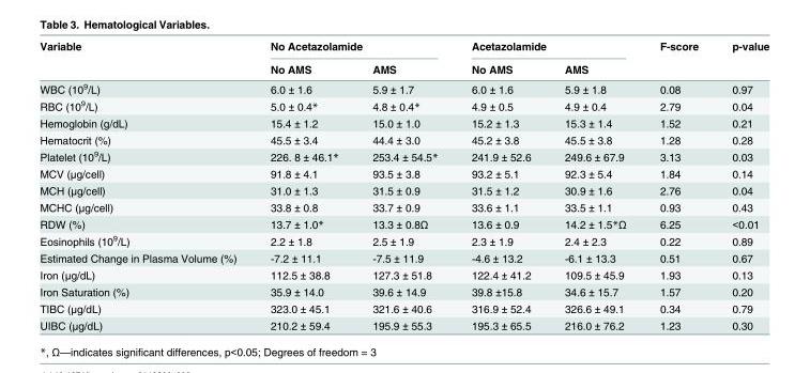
<table><thead><tr><td rowspan="2">Variable</td><td colspan="2">No Acetazolamide</td><td colspan="2">Acetazolamide</td><td rowspan="2">F-score</td><td rowspan="2">p-value</td></tr><tr><td>No AMS</td><td>AMS</td><td>No AMS</td><td>AMS</td></tr></thead><tbody><tr><td>WBC (10<sup>9</sup>/L)</td><td>6.0 ± 1.6</td><td>5.9 ± 1.7</td><td>6.0 ± 1.6</td><td>5.9 ± 1.8</td><td>0.08</td><td>0.97</td></tr><tr><td>RBC (10<sup>9</sup>/L)</td><td>5.0 ± 0.4*</td><td>4.8 ± 0.4*</td><td>4.9 ± 0.5</td><td>4.9 ± 0.4</td><td>2.79</td><td>0.04</td></tr><tr><td>Hemoglobin (g/dL)</td><td>15.4 ± 1.2</td><td>15.0 ± 1.0</td><td>15.2 ± 1.3</td><td>15.3 ± 1.4</td><td>1.52</td><td>0.21</td></tr><tr><td>Hematocrit (%)</td><td>45.5 ± 3.4</td><td>44.4 ± 3.0</td><td>45.2 ± 3.8</td><td>45.5 ± 3.8</td><td>1.28</td><td>0.28</td></tr><tr><td>Platelet (10<sup>9</sup>/L)</td><td>226. 8 ± 46.1*</td><td>253.4 ± 54.5*</td><td>241.9 ± 52.6</td><td>249.6 ± 67.9</td><td>3.13</td><td>0.03</td></tr><tr><td>MCV (μg/cell)</td><td>91.8 ± 4.1</td><td>93.5 ± 3.8</td><td>93.2 ± 5.1</td><td>92.3 ± 5.4</td><td>1.84</td><td>0.14</td></tr><tr><td>MCH (μg/cell)</td><td>31.0 ± 1.3</td><td>31.5 ± 0.9</td><td>31.5 ± 1.2</td><td>30.9 ± 1.6</td><td>2.76</td><td>0.04</td></tr><tr><td>MCHC (μg/cell)</td><td>33.8 ± 0.8</td><td>33.7 ± 0.9</td><td>33.6 ± 1.1</td><td>33.5 ± 1.1</td><td>0.93</td><td>0.43</td></tr><tr><td>RDW (%)</td><td>13.7 ± 1.0*</td><td>13.3 ± 0.8Ω</td><td>13.6 ± 0.9</td><td>14.2 ± 1.5*Ω</td><td>6.25</td><td>&lt;0.01</td></tr><tr><td>Eosinophils (10<sup>9</sup>/L)</td><td>2.2 ± 1.8</td><td>2.5 ± 1.9</td><td>2.3 ± 1.9</td><td>2.4 ± 2.3</td><td>0.22</td><td>0.89</td></tr><tr><td>Estimated Change in Plasma Volume (%)</td><td>-7.2 ± 11.1</td><td>-7.5 ± 11.9</td><td>-4.6 ± 13.2</td><td>-6.1 ± 13.3</td><td>0.51</td><td>0.67</td></tr><tr><td>Iron (μg/dL)</td><td>112.5 ± 38.8</td><td>127.3 ± 51.8</td><td>122.4 ± 41.2</td><td>109.5 ± 45.9</td><td>1.93</td><td>0.13</td></tr><tr><td>Iron Saturation (%)</td><td>35.9 ± 14.0</td><td>39.6 ± 14.9</td><td>39.8 ±15.8</td><td>34.6 ± 15.7</td><td>1.57</td><td>0.20</td></tr><tr><td>TIBC (μg/dL)</td><td>323.0 ± 45.1</td><td>321.6 ± 40.6</td><td>316.9 ± 52.4</td><td>326.6 ± 49.1</td><td>0.34</td><td>0.79</td></tr><tr><td>UIBC (μg/dL)</td><td>210.2 ± 59.4</td><td>195.9 ± 55.3</td><td>195.3 ± 65.5</td><td>216.0 ± 76.2</td><td>1.23</td><td>0.30</td></tr></tbody></table>